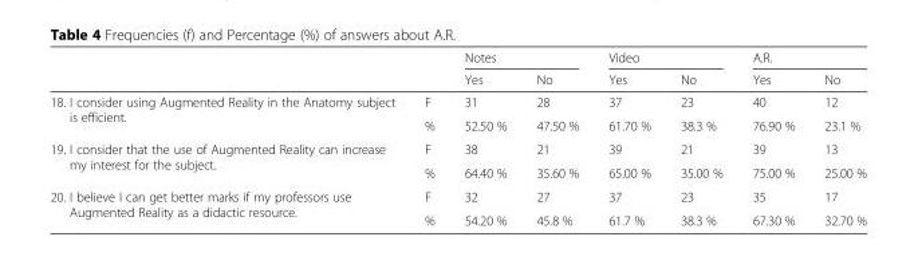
<table><thead><tr><td rowspan="2"></td><td rowspan="2"></td><td colspan="2">Notes</td><td colspan="2">Video</td><td colspan="2">A.R.</td></tr><tr><td>Yes</td><td>No</td><td>Yes</td><td>No</td><td>Yes</td><td>No</td></tr></thead><tbody><tr><td rowspan="2">18. I consider using Augmented Reality in the Anatomy subject is efficient.</td><td>F</td><td>31</td><td>28</td><td>37</td><td>23</td><td>40</td><td>12</td></tr><tr><td>%</td><td>52.50 %</td><td>47.50 %</td><td>61.70 %</td><td>38.3 %</td><td>76.90 %</td><td>23.1 %</td></tr><tr><td rowspan="2">19. I consider that the use of Augmented Reality can increase my interest for the subject.</td><td>F</td><td>38</td><td>21</td><td>39</td><td>21</td><td>39</td><td>13</td></tr><tr><td>%</td><td>64.40 %</td><td>35.60 %</td><td>65.00 %</td><td>35.00 %</td><td>75.00 %</td><td>25.00 %</td></tr><tr><td rowspan="2">20. I believe I can get better marks if my professors use Augmented Reality as a didactic resource.</td><td>F</td><td>32</td><td>27</td><td>37</td><td>23</td><td>35</td><td>17</td></tr><tr><td>%</td><td>54.20 %</td><td>45.8 %</td><td>61.7 %</td><td>38.3 %</td><td>67.30 %</td><td>32.70 %</td></tr></tbody></table>